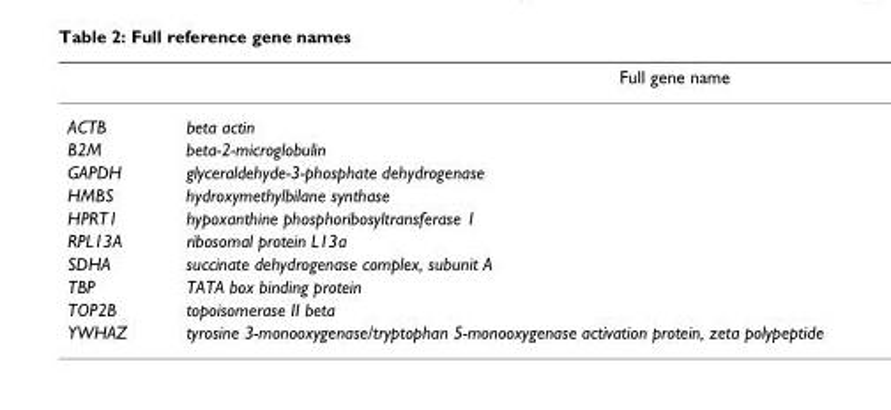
<table><thead><tr><td></td><td>Full gene name</td></tr></thead><tbody><tr><td>ACTB</td><td>beta actin</td></tr><tr><td>B2M</td><td>beta-2-microglobulin</td></tr><tr><td>GAPDH</td><td>glyceraldehyde-3-phosphate dehydrogenase</td></tr><tr><td>HMBS</td><td>hydroxymethylbilane synthase</td></tr><tr><td>HPRT1</td><td>hypoxanthine phosphoribosyltransferase 1</td></tr><tr><td>RPL13A</td><td>ribosomal protein L13a</td></tr><tr><td>SDHA</td><td>succinate dehydrogenase complex, subunit A</td></tr><tr><td>TBP</td><td>TATA box binding protein</td></tr><tr><td>TOP2B</td><td>topoisomerase II beta</td></tr><tr><td>YWHAZ</td><td>tyrosine 3-monooxygenase/tryptophan 5-monooxygenase activation protein, zeta polypeptide</td></tr></tbody></table>